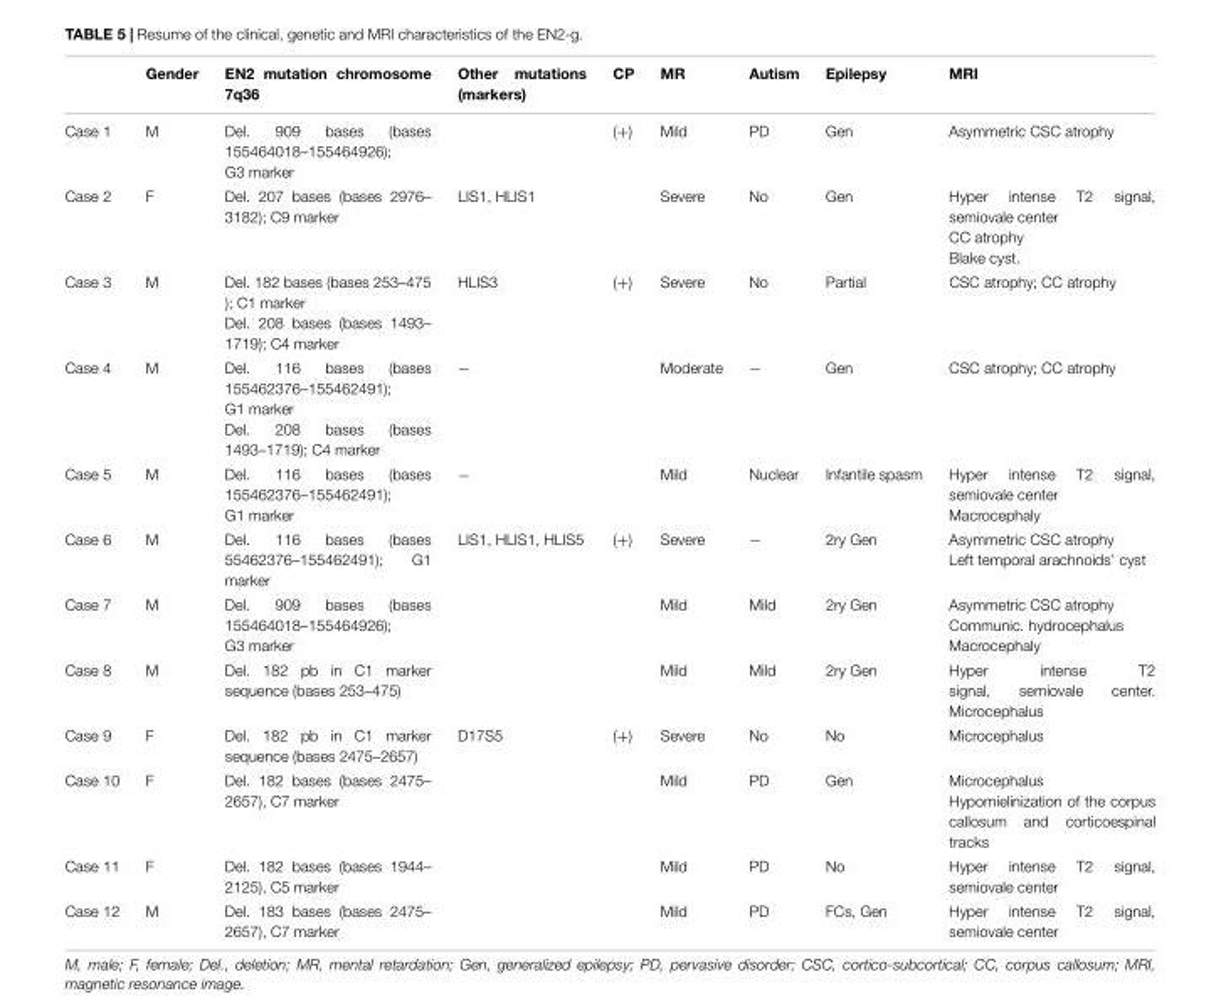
<table><thead><tr><td></td><td>Gender</td><td>EN2 mutation chromosome 7q36</td><td>Other mutations (markers)</td><td>CP</td><td>MR</td><td>Autism</td><td>Epilepsy</td><td>MRI</td></tr></thead><tbody><tr><td>Case 1</td><td>M</td><td>Del. 909 bases (bases 155464018–155464926); G3 marker</td><td></td><td>(+)</td><td>Mild</td><td>PD</td><td>Gen</td><td>Asymmetric CSC atrophy</td></tr><tr><td>Case 2</td><td>F</td><td>Del. 207 bases (bases 2976– 3182); C9 marker</td><td>LIS1, HLIS1</td><td></td><td>Severe</td><td>No</td><td>Gen</td><td>Hyper intense T2 signal, semiovale center CC atrophy Blake cyst.</td></tr><tr><td>Case 3</td><td>M</td><td>Del. 182 bases (bases 253–475 ); C1 marker Del. 208 bases (bases 1493– 1719); C4 marker</td><td>HLIS3</td><td>(+)</td><td>Severe</td><td>No</td><td>Partial</td><td>CSC atrophy; CC atrophy</td></tr><tr><td>Case 4</td><td>M</td><td>Del. 116 bases (bases 155462376–155462491); G1 marker Del. 208 bases (bases 1493–1719); C4 marker</td><td>−</td><td></td><td>Moderate</td><td>−</td><td>Gen</td><td>CSC atrophy; CC atrophy</td></tr><tr><td>Case 5</td><td>M</td><td>Del. 116 bases (bases 155462376–155462491); G1 marker</td><td>−</td><td></td><td>Mild</td><td>Nuclear</td><td>Infantile spasm</td><td>Hyper intense T2 signal, semiovale center Macrocephaly</td></tr><tr><td>Case 6</td><td>M</td><td>Del. 116 bases (bases 55462376–155462491); G1 marker</td><td>LIS1, HLIS1, HLIS5</td><td>(+)</td><td>Severe</td><td>−</td><td>2ry Gen</td><td>Asymmetric CSC atrophy Left temporal arachnoids’ cyst</td></tr><tr><td>Case 7</td><td>M</td><td>Del. 909 bases (bases 155464018–155464926); G3 marker</td><td></td><td></td><td>Mild</td><td>Mild</td><td>2ry Gen</td><td>Asymmetric CSC atrophy Communic. hydrocephalus Macrocephaly</td></tr><tr><td>Case 8</td><td>M</td><td>Del. 182 pb in C1 marker sequence (bases 253–475)</td><td></td><td></td><td>Mild</td><td>Mild</td><td>2ry Gen</td><td>Hyper intense T2 signal, semiovale center. Microcephalus</td></tr><tr><td>Case 9</td><td>F</td><td>Del. 182 pb in C1 marker sequence (bases 2475–2657)</td><td>D17S5</td><td>(+)</td><td>Severe</td><td>No</td><td>No</td><td>Microcephalus</td></tr><tr><td>Case 10</td><td>F</td><td>Del. 182 bases (bases 2475– 2657), C7 marker</td><td></td><td></td><td>Mild</td><td>PD</td><td>Gen</td><td>Microcephalus Hypomielinization of the corpus callosum and corticoespinal tracks</td></tr><tr><td>Case 11</td><td>F</td><td>Del. 182 bases (bases 1944– 2125), C5 marker</td><td></td><td></td><td>Mild</td><td>PD</td><td>No</td><td>Hyper intense T2 signal, semiovale center</td></tr><tr><td>Case 12</td><td>M</td><td>Del. 183 bases (bases 2475– 2657), C7 marker</td><td></td><td></td><td>Mild</td><td>PD</td><td>FCs, Gen</td><td>Hyper intense T2 signal, semiovale center</td></tr></tbody></table>